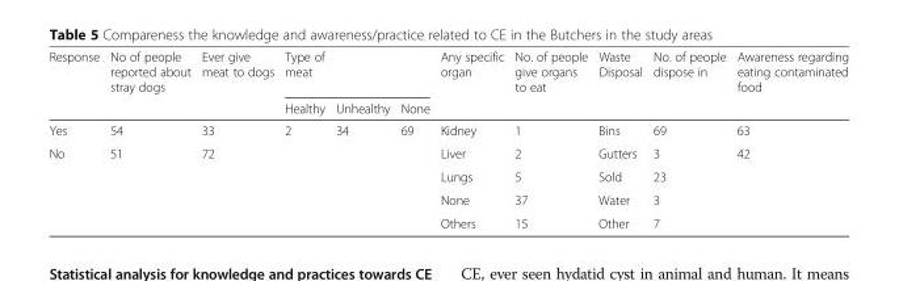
<table><thead><tr><td rowspan="2">Response</td><td rowspan="2">No of people reported about stray dogs</td><td rowspan="2">Ever give meat to dogs</td><td colspan="3">Type of meat</td><td rowspan="2">Any specific organ</td><td rowspan="2">No. of people give organs to eat</td><td rowspan="2">Waste Disposal</td><td rowspan="2">No. of people dispose in</td><td rowspan="2">Awareness regarding eating contaminated food</td></tr><tr><td>Healthy</td><td>Unhealthy</td><td>None</td></tr></thead><tbody><tr><td>Yes</td><td>54</td><td>33</td><td>2</td><td>34</td><td>69</td><td>Kidney</td><td>1</td><td>Bins</td><td>69</td><td>63</td></tr><tr><td rowspan="2">No</td><td>51</td><td>72</td><td rowspan="2" colspan="3"></td><td>Liver</td><td>2</td><td>Gutters</td><td>3</td><td>42</td></tr><tr><td></td><td></td><td>Lungs</td><td>5</td><td>Sold</td><td>23</td><td></td></tr><tr><td colspan="6"></td><td>None</td><td>37</td><td>Water</td><td>3</td><td></td></tr><tr><td colspan="2"></td><td></td><td></td><td></td><td></td><td>Others</td><td>15</td><td>Other</td><td>7</td><td></td></tr></tbody></table>